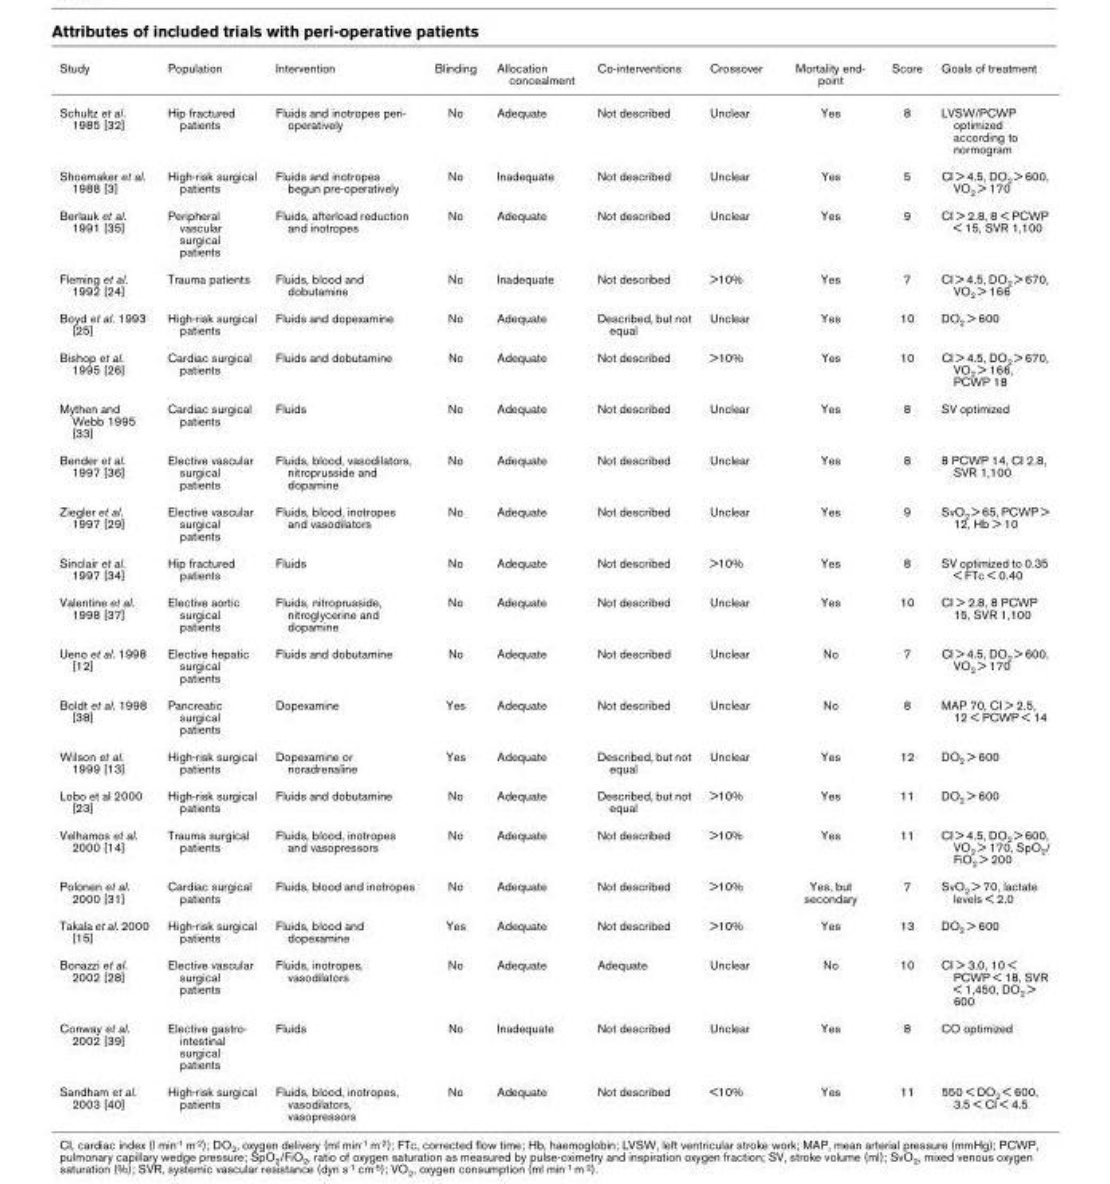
<table><thead><tr><td>Study</td><td>Population</td><td>Intervention</td><td>Blinding</td><td>Allocation concealment</td><td>Co-interventions</td><td>Crossover</td><td>Mortality end- point</td><td>Score</td><td>Goals of treatment</td></tr></thead><tbody><tr><td>Schultz et al. 1985 [32]</td><td>Hip fractured patients</td><td>Fluids and inotropes peri- operatively</td><td>No</td><td>Adequate</td><td>Not described</td><td>Unclear</td><td>Yes</td><td>8</td><td>LVSW/PCWP optimized according to normogram</td></tr><tr><td>Shoemaker et al. 1988 [3]</td><td>High-risk surgical patients</td><td>Fluids and inotropes begun pre-operatively</td><td>No</td><td>Inadequate</td><td>Not described</td><td>Unclear</td><td>Yes</td><td>5</td><td>CI &gt; 4.5, DO2 &gt; 600, VO2 &gt; 170</td></tr><tr><td>Berlauk et al. 1991 [35]</td><td>Peripheral vascular surgical patients</td><td>Fluids, afterload reduction and inotropes</td><td>No</td><td>Adequate</td><td>Not described</td><td>Unclear</td><td>Yes</td><td>9</td><td>CI &gt; 2.8, 8 &lt; PCWP &lt; 15, SVR 1,100</td></tr><tr><td>Fleming et al. 1992 [24]</td><td>Trauma patients</td><td>Fluids, blood and dobutamine</td><td>No</td><td>Inadequate</td><td>Not described</td><td>&gt;10%</td><td>Yes</td><td>7</td><td>CI &gt; 4.5, DO2 &gt; 670, VO2 &gt; 166</td></tr><tr><td>Boyd et al. 1993 [25]</td><td>High-risk surgical patients</td><td>Fluids and dopexamine</td><td>No</td><td>Adequate</td><td>Described, but not equal</td><td>Unclear</td><td>Yes</td><td>10</td><td>DO2 &gt; 600</td></tr><tr><td>Bishop et al. 1995 [26]</td><td>Cardiac surgical patients</td><td>Fluids and dobutamine</td><td>No</td><td>Adequate</td><td>Not described</td><td>&gt;10%</td><td>Yes</td><td>10</td><td>CI &gt; 4.5, DO2 &gt; 670, VO2 &gt; 166, PCWP 18</td></tr><tr><td>Mythen and Webb 1995 [33]</td><td>Cardiac surgical patients</td><td>Fluids</td><td>No</td><td>Adequate</td><td>Not described</td><td>Unclear</td><td>Yes</td><td>8</td><td>SV optimized</td></tr><tr><td>Bender et al. 1997 [36]</td><td>Elective vascular surgical patients</td><td>Fluids, blood, vasodilators, nitroprusside and dopamine</td><td>No</td><td>Adequate</td><td>Not described</td><td>Unclear</td><td>Yes</td><td>8</td><td>8 PCWP 14, CI 2.8, SVR 1,100</td></tr><tr><td>Ziegler et al. 1997 [29]</td><td>Elective vascular surgical patients</td><td>Fluids, blood, inotropes and vasodilators</td><td>No</td><td>Adequate</td><td>Not described</td><td>Unclear</td><td>Yes</td><td>9</td><td>SvO2 &gt; 65, PCWP &gt; 12, Hb &gt; 10</td></tr><tr><td>Sinclair et al. 1997 [34]</td><td>Hip fractured patients</td><td>Fluids</td><td>No</td><td>Adequate</td><td>Not described</td><td>&gt;10%</td><td>Yes</td><td>8</td><td>SV optimized to 0.35 &lt; FTc &lt; 0.40</td></tr><tr><td>Valentine et al. 1998 [37]</td><td>Elective aortic surgical patients</td><td>Fluids, nitroprusside, nitroglycerine and dopamine</td><td>No</td><td>Adequate</td><td>Not described</td><td>Unclear</td><td>Yes</td><td>10</td><td>CI &gt; 2.8, 8 PCWP 15, SVR 1,100</td></tr><tr><td>Ueno et al. 1998 [12]</td><td>Elective hepatic surgical patients</td><td>Fluids and dobutamine</td><td>No</td><td>Adequate</td><td>Not described</td><td>Unclear</td><td>No</td><td>7</td><td>CI &gt; 4.5, DO2 &gt; 600, VO2 &gt; 170</td></tr><tr><td>Boldt et al. 1998 [38]</td><td>Pancreatic surgical patients</td><td>Dopexamine</td><td>Yes</td><td>Adequate</td><td>Not described</td><td>Unclear</td><td>No</td><td>8</td><td>MAP 70, CI &gt; 2.5, 12 &lt; PCWP &lt; 14</td></tr><tr><td>Wilson et al. 1999 [13]</td><td>High-risk surgical patients</td><td>Dopexamine or noradrenaline</td><td>Yes</td><td>Adequate</td><td>Described, but not equal</td><td>Unclear</td><td>Yes</td><td>12</td><td>DO2 &gt; 600</td></tr><tr><td>Lobo et al 2000 [23]</td><td>High-risk surgical patients</td><td>Fluids and dobutamine</td><td>No</td><td>Adequate</td><td>Described, but not equal</td><td>&gt;10%</td><td>Yes</td><td>11</td><td>DO2 &gt; 600</td></tr><tr><td>Velhamos et al. 2000 [14]</td><td>Trauma surgical patients</td><td>Fluids, blood, inotropes and vasopressors</td><td>No</td><td>Adequate</td><td>Not described</td><td>&gt;10%</td><td>Yes</td><td>11</td><td>CI &gt; 4.5, DO2 &gt; 600, VO2 &gt; 170, SpO2/ FiO2 &gt; 200</td></tr><tr><td>Polonen et al. 2000 [31]</td><td>Cardiac surgical patients</td><td>Fluids, blood and inotropes</td><td>No</td><td>Adequate</td><td>Not described</td><td>&gt;10%</td><td>Yes, but secondary</td><td>7</td><td>SvO2 &gt; 70, lactate levels &lt; 2.0</td></tr><tr><td>Takala et al. 2000 [15]</td><td>High-risk surgical patients</td><td>Fluids, blood and dopexamine</td><td>Yes</td><td>Adequate</td><td>Not described</td><td>&gt;10%</td><td>Yes</td><td>13</td><td>DO2 &gt; 600</td></tr><tr><td>Bonazzi et al. 2002 [28]</td><td>Elective vascular surgical patients</td><td>Fluids, inotropes, vasodilators</td><td>No</td><td>Adequate</td><td>Adequate</td><td>Unclear</td><td>No</td><td>10</td><td>CI &gt; 3.0, 10 &lt; PCWP &lt; 18, SVR &lt; 1,450, DO2 &gt; 600</td></tr><tr><td>Conway et al. 2002 [39]</td><td>Elective gastro- intestinal surgical patients</td><td>Fluids</td><td>No</td><td>Inadequate</td><td>Not described</td><td>Unclear</td><td>Yes</td><td>8</td><td>CO optimized</td></tr><tr><td>Sandham et al. 2003 [40]</td><td>High-risk surgical patients</td><td>Fluids, blood, inotropes, vasodilators, vasopressors</td><td>No</td><td>Adequate</td><td>Not described</td><td>&lt;10%</td><td>Yes</td><td>11</td><td>550 &lt; DO2 &lt; 600, 3.5 &lt; CI &lt; 4.5</td></tr></tbody></table>